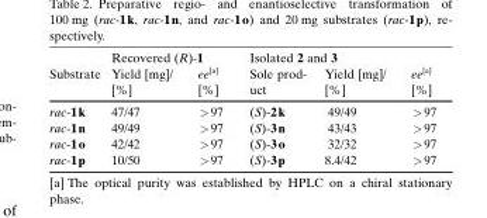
<table><thead><tr><td rowspan="2">Substrate</td><td colspan="2">Recovered (R)-1</td><td colspan="2">Isolated 2 and 3</td><td rowspan="2">ee[a] [%]</td></tr><tr><td>Yield [mg]/ [%]</td><td>ee[a] [%]</td><td>Sole prod- uct</td><td>Yield [mg]/ [%]</td></tr></thead><tbody><tr><td>rac-1k</td><td>47/47</td><td>&gt;97</td><td>(S)-2k</td><td>49/49</td><td>&gt;97</td></tr><tr><td>rac-1n</td><td>49/49</td><td>&gt;97</td><td>(S)-3n</td><td>43/43</td><td>&gt;97</td></tr><tr><td>rac-1o</td><td>42/42</td><td>&gt;97</td><td>(S)-3o</td><td>32/32</td><td>&gt;97</td></tr><tr><td>rac-1p</td><td>10/50</td><td>&gt;97</td><td>(S)-3p</td><td>8.4/42</td><td>&gt;97</td></tr></tbody></table>